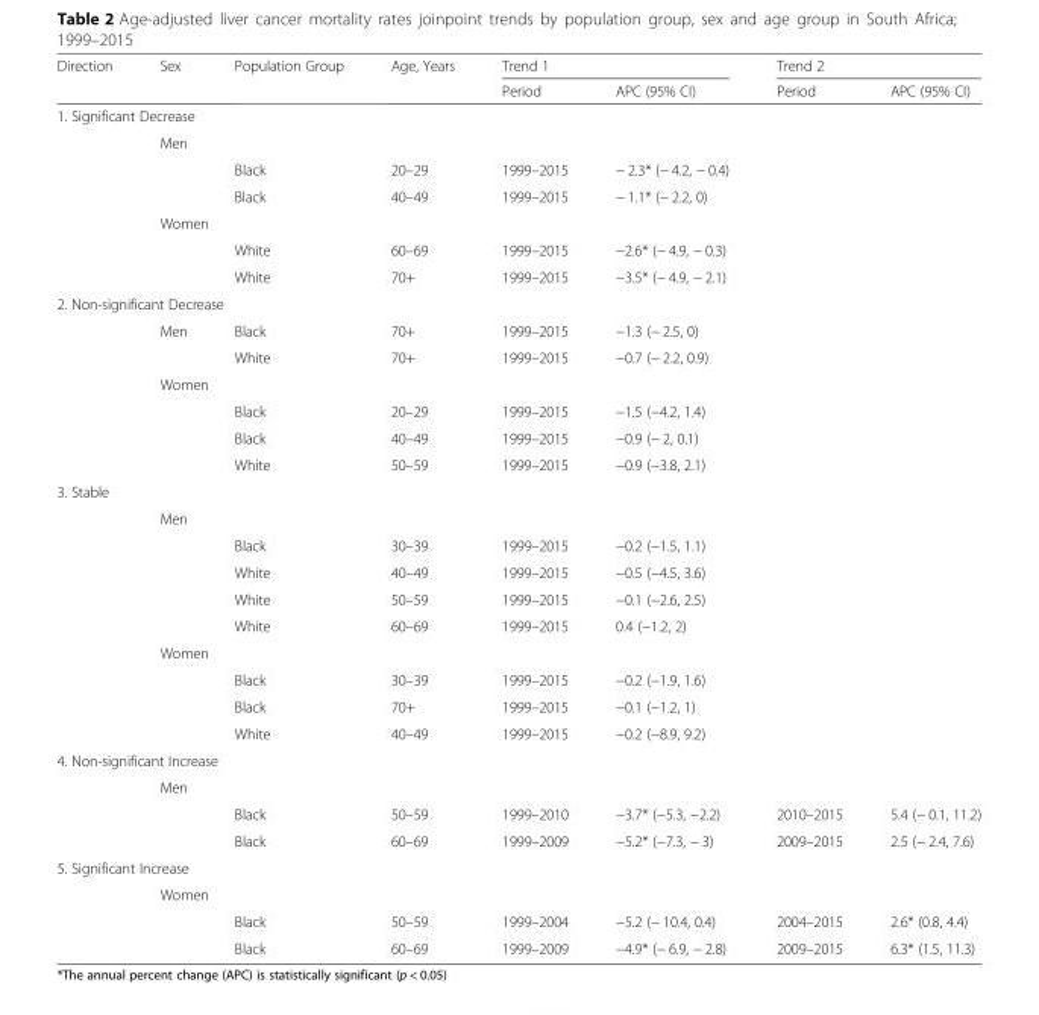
<table><thead><tr><td rowspan="2">Direction</td><td rowspan="2">Sex</td><td rowspan="2">Population Group</td><td rowspan="2">Age, Years</td><td colspan="2">Trend 1</td><td colspan="2">Trend 2</td></tr><tr><td>Period</td><td>APC (95% CI)</td><td>Period</td><td>APC (95% CI)</td></tr></thead><tbody><tr><td colspan="8">1. Significant Decrease</td></tr><tr><td rowspan="6"></td><td colspan="7">Men</td></tr><tr><td rowspan="2"></td><td>Black</td><td>20–29</td><td>1999–2015</td><td>− 2.3* (− 4.2, − 0.4)</td><td></td><td></td></tr><tr><td>Black</td><td>40–49</td><td>1999–2015</td><td>− 1.1* (− 2.2, 0)</td><td></td><td></td></tr><tr><td colspan="7">Women</td></tr><tr><td rowspan="2"></td><td>White</td><td>60–69</td><td>1999–2015</td><td>−2.6* (− 4.9, − 0.3)</td><td></td><td></td></tr><tr><td>White</td><td>70+</td><td>1999–2015</td><td>−3.5* (− 4.9, − 2.1)</td><td></td><td></td></tr><tr><td colspan="8">2. Non-significant Decrease</td></tr><tr><td rowspan="6"></td><td>Men</td><td>Black</td><td>70+</td><td>1999–2015</td><td>−1.3 (− 2.5, 0)</td><td></td><td></td></tr><tr><td></td><td>White</td><td>70+</td><td>1999–2015</td><td>−0.7 (− 2.2, 0.9)</td><td></td><td></td></tr><tr><td colspan="7">Women</td></tr><tr><td></td><td>Black</td><td>20–29</td><td>1999–2015</td><td>−1.5 (−4.2, 1.4)</td><td></td><td></td></tr><tr><td></td><td>Black</td><td>40–49</td><td>1999–2015</td><td>−0.9 (− 2, 0.1)</td><td></td><td></td></tr><tr><td></td><td>White</td><td>50–59</td><td>1999–2015</td><td>−0.9 (−3.8, 2.1)</td><td></td><td></td></tr><tr><td colspan="8">3. Stable</td></tr><tr><td rowspan="9"></td><td colspan="7">Men</td></tr><tr><td rowspan="4"></td><td>Black</td><td>30–39</td><td>1999–2015</td><td>−0.2 (−1.5, 1.1)</td><td></td><td></td></tr><tr><td>White</td><td>40–49</td><td>1999–2015</td><td>−0.5 (−4.5, 3.6)</td><td></td><td></td></tr><tr><td>White</td><td>50–59</td><td>1999–2015</td><td>−0.1 (−2.6, 2.5)</td><td></td><td></td></tr><tr><td>White</td><td>60–69</td><td>1999–2015</td><td>0.4 (−1.2, 2)</td><td></td><td></td></tr><tr><td colspan="7">Women</td></tr><tr><td rowspan="3"></td><td>Black</td><td>30–39</td><td>1999–2015</td><td>−0.2 (−1.9, 1.6)</td><td></td><td></td></tr><tr><td>Black</td><td>70+</td><td>1999–2015</td><td>−0.1 (−1.2, 1)</td><td></td><td></td></tr><tr><td>White</td><td>40–49</td><td>1999–2015</td><td>−0.2 (−8.9, 9.2)</td><td></td><td></td></tr><tr><td colspan="8">4. Non-significant Increase</td></tr><tr><td rowspan="3"></td><td colspan="7">Men</td></tr><tr><td rowspan="2"></td><td>Black</td><td>50–59</td><td>1999–2010</td><td>−3.7* (−5.3, −2.2)</td><td>2010–2015</td><td>5.4 (− 0.1, 11.2)</td></tr><tr><td>Black</td><td>60–69</td><td>1999–2009</td><td>−5.2* (−7.3, − 3)</td><td>2009–2015</td><td>2.5 (− 2.4, 7.6)</td></tr><tr><td colspan="8">5. Significant Increase</td></tr><tr><td rowspan="3"></td><td colspan="7">Women</td></tr><tr><td rowspan="2"></td><td>Black</td><td>50–59</td><td>1999–2004</td><td>−5.2 (− 10.4, 0.4)</td><td>2004–2015</td><td>2.6* (0.8, 4.4)</td></tr><tr><td>Black</td><td>60–69</td><td>1999–2009</td><td>−4.9* (− 6.9, − 2.8)</td><td>2009–2015</td><td>6.3* (1.5, 11.3)</td></tr></tbody></table>